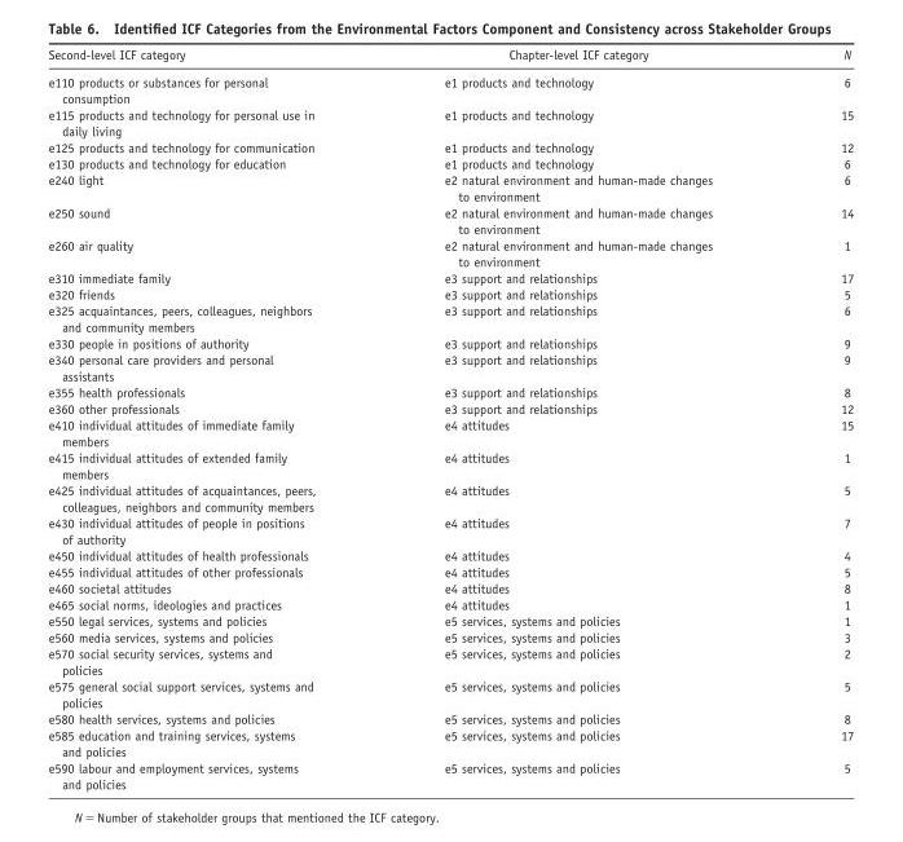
<table><thead><tr><td>Second-level ICF category</td><td>Chapter-level ICF category</td><td>N</td></tr></thead><tbody><tr><td>e110 products or substances for personal consumption</td><td>e1 products and technology</td><td>6</td></tr><tr><td>e115 products and technology for personal use in daily living</td><td>e1 products and technology</td><td>15</td></tr><tr><td>e125 products and technology for communication</td><td>e1 products and technology</td><td>12</td></tr><tr><td>e130 products and technology for education</td><td>e1 products and technology</td><td>6</td></tr><tr><td>e240 light</td><td>e2 natural environment and human-made changes to environment</td><td>6</td></tr><tr><td>e250 sound</td><td>e2 natural environment and human-made changes to environment</td><td>14</td></tr><tr><td>e260 air quality</td><td>e2 natural environment and human-made changes to environment</td><td>1</td></tr><tr><td>e310 immediate family</td><td>e3 support and relationships</td><td>17</td></tr><tr><td>e320 friends</td><td>e3 support and relationships</td><td>5</td></tr><tr><td>e325 acquaintances, peers, colleagues, neighbors and community members</td><td>e3 support and relationships</td><td>6</td></tr><tr><td>e330 people in positions of authority</td><td>e3 support and relationships</td><td>9</td></tr><tr><td>e340 personal care providers and personal assistants</td><td>e3 support and relationships</td><td>9</td></tr><tr><td>e355 health professionals</td><td>e3 support and relationships</td><td>8</td></tr><tr><td>e360 other professionals</td><td>e3 support and relationships</td><td>12</td></tr><tr><td>e410 individual attitudes of immediate family members</td><td>e4 attitudes</td><td>15</td></tr><tr><td>e415 individual attitudes of extended family members</td><td>e4 attitudes</td><td>1</td></tr><tr><td>e425 individual attitudes of acquaintances, peers, colleagues, neighbors and community members</td><td>e4 attitudes</td><td>5</td></tr><tr><td>e430 individual attitudes of people in positions of authority</td><td>e4 attitudes</td><td>7</td></tr><tr><td>e450 individual attitudes of health professionals</td><td>e4 attitudes</td><td>4</td></tr><tr><td>e455 individual attitudes of other professionals</td><td>e4 attitudes</td><td>5</td></tr><tr><td>e460 societal attitudes</td><td>e4 attitudes</td><td>8</td></tr><tr><td>e465 social norms, ideologies and practices</td><td>e4 attitudes</td><td>1</td></tr><tr><td>e550 legal services, systems and policies</td><td>e5 services, systems and policies</td><td>1</td></tr><tr><td>e560 media services, systems and policies</td><td>e5 services, systems and policies</td><td>3</td></tr><tr><td>e570 social security services, systems and policies</td><td>e5 services, systems and policies</td><td>2</td></tr><tr><td>e575 general social support services, systems and policies</td><td>e5 services, systems and policies</td><td>5</td></tr><tr><td>e580 health services, systems and policies</td><td>e5 services, systems and policies</td><td>8</td></tr><tr><td>e585 education and training services, systems and policies</td><td>e5 services, systems and policies</td><td>17</td></tr><tr><td>e590 labour and employment services, systems and policies</td><td>e5 services, systems and policies</td><td>5</td></tr></tbody></table>